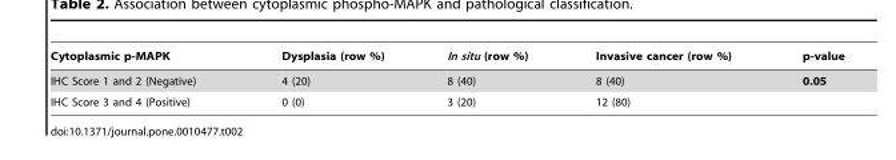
<table><thead><tr><td>Cytoplasmic p-MAPK</td><td>Dysplasia (row %)</td><td>In situ (row %)</td><td>Invasive cancer (row %)</td><td>p-value</td></tr></thead><tbody><tr><td>IHC Score 1 and 2 (Negative)</td><td>4 (20)</td><td>8 (40)</td><td>8 (40)</td><td>0.05</td></tr><tr><td>IHC Score 3 and 4 (Positive)</td><td>0 (0)</td><td>3 (20)</td><td>12 (80)</td><td></td></tr></tbody></table>